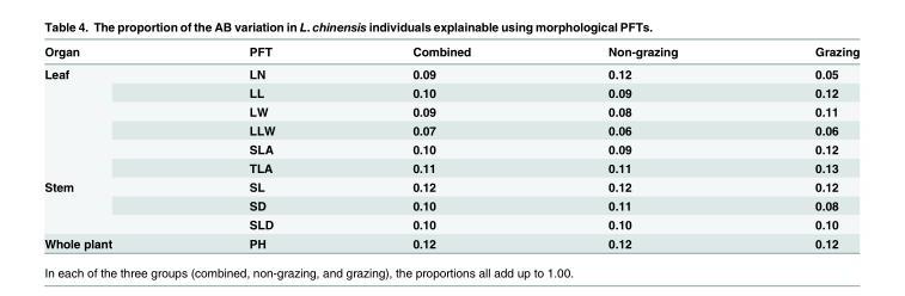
<table><thead><tr><td>Organ</td><td>PFT</td><td>Combined</td><td>Non-grazing</td><td>Grazing</td></tr></thead><tbody><tr><td rowspan="6">Leaf</td><td>LN</td><td>0.09</td><td>0.12</td><td>0.05</td></tr><tr><td>LL</td><td>0.10</td><td>0.09</td><td>0.12</td></tr><tr><td>LW</td><td>0.09</td><td>0.08</td><td>0.11</td></tr><tr><td>LLW</td><td>0.07</td><td>0.06</td><td>0.06</td></tr><tr><td>SLA</td><td>0.10</td><td>0.09</td><td>0.12</td></tr><tr><td>TLA</td><td>0.11</td><td>0.11</td><td>0.13</td></tr><tr><td rowspan="3">Stem</td><td>SL</td><td>0.12</td><td>0.12</td><td>0.12</td></tr><tr><td>SD</td><td>0.10</td><td>0.11</td><td>0.08</td></tr><tr><td>SLD</td><td>0.10</td><td>0.10</td><td>0.10</td></tr><tr><td>Whole plant</td><td>PH</td><td>0.12</td><td>0.12</td><td>0.12</td></tr></tbody></table>